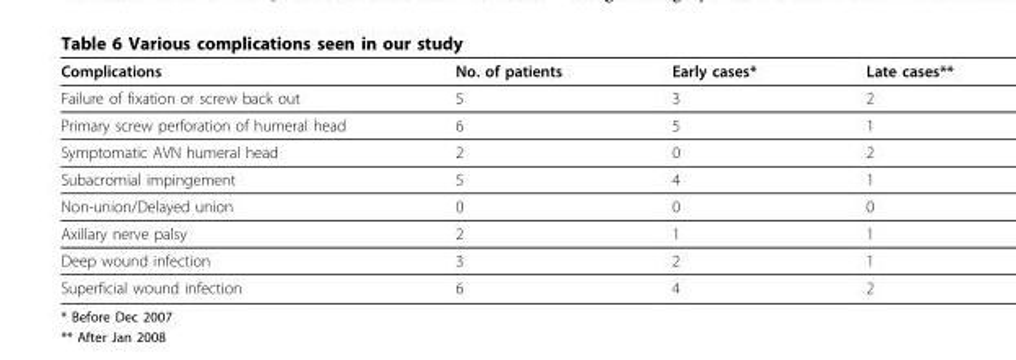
<table><thead><tr><td>Complications</td><td>No. of patients</td><td>Early cases*</td><td>Late cases**</td></tr></thead><tbody><tr><td>Failure of fixation or screw back out</td><td>5</td><td>3</td><td>2</td></tr><tr><td>Primary screw perforation of humeral head</td><td>6</td><td>5</td><td>1</td></tr><tr><td>Symptomatic AVN humeral head</td><td>2</td><td>0</td><td>2</td></tr><tr><td>Subacromial impingement</td><td>5</td><td>4</td><td>1</td></tr><tr><td>Non-union/Delayed union</td><td>0</td><td>0</td><td>0</td></tr><tr><td>Axillary nerve palsy</td><td>2</td><td>1</td><td>1</td></tr><tr><td>Deep wound infection</td><td>3</td><td>2</td><td>1</td></tr><tr><td>Superficial wound infection</td><td>6</td><td>4</td><td>2</td></tr></tbody></table>